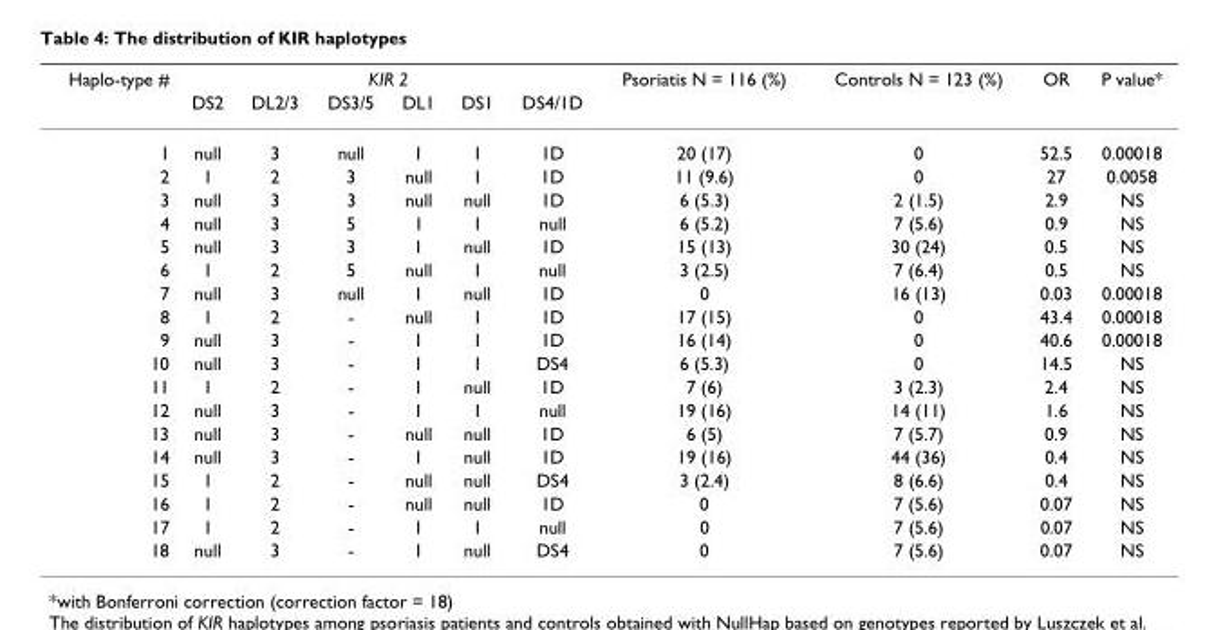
<table><thead><tr><td rowspan="2">Haplo-type #</td><td colspan="6">KIR 2</td><td rowspan="2">Psoriatis N = 116 (%)</td><td rowspan="2">Controls N = 123 (%)</td><td rowspan="2">OR</td><td rowspan="2">P value*</td></tr><tr><td>DS2</td><td>DL2/3</td><td>DS3/5</td><td>DL1</td><td>DS1</td><td>DS4/1D</td></tr></thead><tbody><tr><td>1</td><td>null</td><td>3</td><td>null</td><td>1</td><td>1</td><td>1D</td><td>20 (17)</td><td>0</td><td>52.5</td><td>0.00018</td></tr><tr><td>2</td><td>1</td><td>2</td><td>3</td><td>null</td><td>1</td><td>1D</td><td>11 (9.6)</td><td>0</td><td>27</td><td>0.0058</td></tr><tr><td>3</td><td>null</td><td>3</td><td>3</td><td>null</td><td>null</td><td>1D</td><td>6 (5.3)</td><td>2 (1.5)</td><td>2.9</td><td>NS</td></tr><tr><td>4</td><td>null</td><td>3</td><td>5</td><td>1</td><td>1</td><td>null</td><td>6 (5.2)</td><td>7 (5.6)</td><td>0.9</td><td>NS</td></tr><tr><td>5</td><td>null</td><td>3</td><td>3</td><td>1</td><td>null</td><td>1D</td><td>15 (13)</td><td>30 (24)</td><td>0.5</td><td>NS</td></tr><tr><td>6</td><td>1</td><td>2</td><td>5</td><td>null</td><td>1</td><td>null</td><td>3 (2.5)</td><td>7 (6.4)</td><td>0.5</td><td>NS</td></tr><tr><td>7</td><td>null</td><td>3</td><td>null</td><td>1</td><td>null</td><td>1D</td><td>0</td><td>16 (13)</td><td>0.03</td><td>0.00018</td></tr><tr><td>8</td><td>1</td><td>2</td><td>-</td><td>null</td><td>1</td><td>1D</td><td>17 (15)</td><td>0</td><td>43.4</td><td>0.00018</td></tr><tr><td>9</td><td>null</td><td>3</td><td>-</td><td>1</td><td>1</td><td>1D</td><td>16 (14)</td><td>0</td><td>40.6</td><td>0.00018</td></tr><tr><td>10</td><td>null</td><td>3</td><td>-</td><td>1</td><td>1</td><td>DS4</td><td>6 (5.3)</td><td>0</td><td>14.5</td><td>NS</td></tr><tr><td>11</td><td>1</td><td>2</td><td>-</td><td>1</td><td>null</td><td>1D</td><td>7 (6)</td><td>3 (2.3)</td><td>2.4</td><td>NS</td></tr><tr><td>12</td><td>null</td><td>3</td><td>-</td><td>1</td><td>1</td><td>null</td><td>19 (16)</td><td>14 (11)</td><td>1.6</td><td>NS</td></tr><tr><td>13</td><td>null</td><td>3</td><td>-</td><td>null</td><td>null</td><td>1D</td><td>6 (5)</td><td>7 (5.7)</td><td>0.9</td><td>NS</td></tr><tr><td>14</td><td>null</td><td>3</td><td>-</td><td>1</td><td>null</td><td>1D</td><td>19 (16)</td><td>44 (36)</td><td>0.4</td><td>NS</td></tr><tr><td>15</td><td>1</td><td>2</td><td>-</td><td>null</td><td>null</td><td>DS4</td><td>3 (2.4)</td><td>8 (6.6)</td><td>0.4</td><td>NS</td></tr><tr><td>16</td><td>1</td><td>2</td><td>-</td><td>null</td><td>null</td><td>1D</td><td>0</td><td>7 (5.6)</td><td>0.07</td><td>NS</td></tr><tr><td>17</td><td>1</td><td>2</td><td>-</td><td>1</td><td>1</td><td>null</td><td>0</td><td>7 (5.6)</td><td>0.07</td><td>NS</td></tr><tr><td>18</td><td>null</td><td>3</td><td>-</td><td>1</td><td>null</td><td>DS4</td><td>0</td><td>7 (5.6)</td><td>0.07</td><td>NS</td></tr></tbody></table>